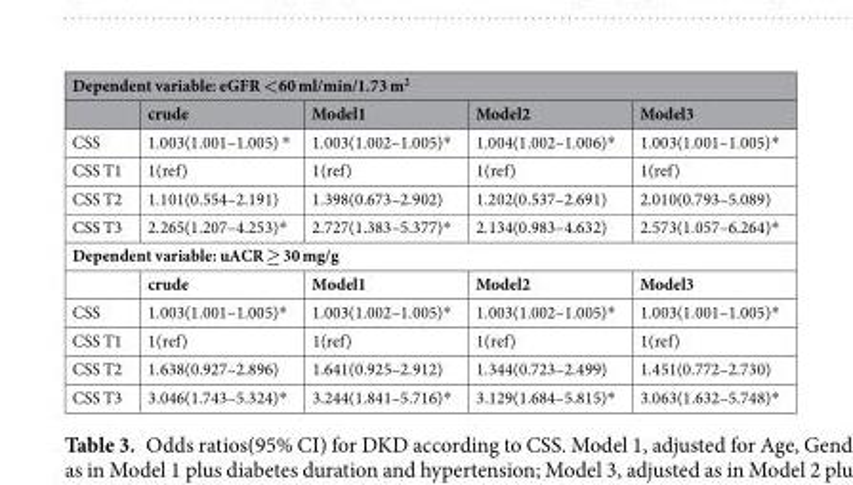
<table><thead><tr><td colspan="5">Dependent variable: eGFR &lt;60 ml/min/1.73 m<sup>2</sup></td></tr><tr><td></td><td>crude</td><td>Model1</td><td>Model2</td><td>Model3</td></tr></thead><tbody><tr><td>CSS</td><td>1.003(1.001–1.005) *</td><td>1.003(1.002–1.005)*</td><td>1.004(1.002–1.006)*</td><td>1.003(1.001–1.005)*</td></tr><tr><td>CSS T1</td><td>1(ref)</td><td>1(ref)</td><td>1(ref)</td><td>1(ref)</td></tr><tr><td>CSS T2</td><td>1.101(0.554–2.191)</td><td>1.398(0.673–2.902)</td><td>1.202(0.537–2.691)</td><td>2.010(0.793–5.089)</td></tr><tr><td>CSS T3</td><td>2.265(1.207–4.253)*</td><td>2.727(1.383–5.377)*</td><td>2.134(0.983–4.632)</td><td>2.573(1.057–6.264)*</td></tr><tr><td colspan="5">Dependent variable: uACR ≥ 30 mg/g</td></tr><tr><td></td><td>crude</td><td>Model1</td><td>Model2</td><td>Model3</td></tr><tr><td>CSS</td><td>1.003(1.001–1.005)*</td><td>1.003(1.002–1.005)*</td><td>1.003(1.002–1.005)*</td><td>1.003(1.001–1.005)*</td></tr><tr><td>CSS T1</td><td>1(ref)</td><td>1(ref)</td><td>1(ref)</td><td>1(ref)</td></tr><tr><td>CSS T2</td><td>1.638(0.927–2.896)</td><td>1.641(0.925–2.912)</td><td>1.344(0.723–2.499)</td><td>1.451(0.772–2.730)</td></tr><tr><td>CSS T3</td><td>3.046(1.743–5.324)*</td><td>3.244(1.841–5.716)*</td><td>3.129(1.684–5.815)*</td><td>3.063(1.632–5.748)*</td></tr></tbody></table>